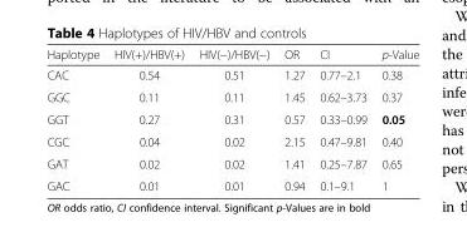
<table><thead><tr><td>Haplotype</td><td>HIV(+)/HBV(+)</td><td>HIV(−)/HBV(−)</td><td>OR</td><td>CI</td><td>p-Value</td></tr></thead><tbody><tr><td>CAC</td><td>0.54</td><td>0.51</td><td>1.27</td><td>0.77–2.1</td><td>0.38</td></tr><tr><td>GGC</td><td>0.11</td><td>0.11</td><td>1.45</td><td>0.62–3.73</td><td>0.37</td></tr><tr><td>GGT</td><td>0.27</td><td>0.31</td><td>0.57</td><td>0.33–0.99</td><td>0.05</td></tr><tr><td>CGC</td><td>0.04</td><td>0.02</td><td>2.15</td><td>0.47–9.81</td><td>0.40</td></tr><tr><td>GAT</td><td>0.02</td><td>0.02</td><td>1.41</td><td>0.25–7.87</td><td>0.65</td></tr><tr><td>GAC</td><td>0.01</td><td>0.01</td><td>0.94</td><td>0.1–9.1</td><td>1</td></tr></tbody></table>